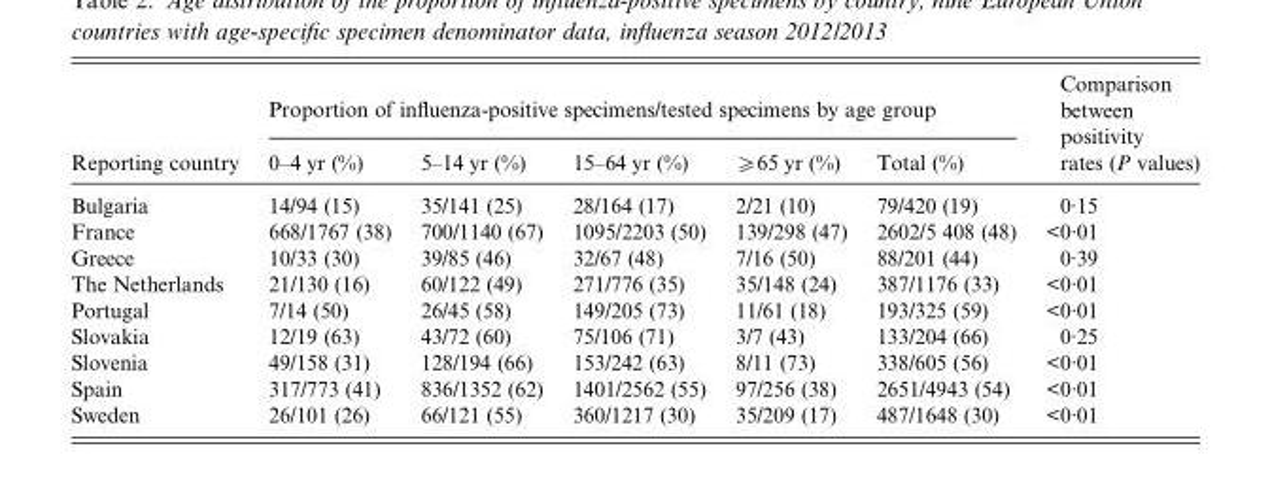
<table><thead><tr><td rowspan="2">Reporting country</td><td colspan="5">Proportion of influenza-positive specimens/tested specimens by age group</td><td rowspan="2">Comparison between positivity rates (P values)</td></tr><tr><td>0–4 yr (%)</td><td>5–14 yr (%)</td><td>15–64 yr (%)</td><td>⩾65 yr (%)</td><td>Total (%)</td></tr></thead><tbody><tr><td>Bulgaria</td><td>14/94 (15)</td><td>35/141 (25)</td><td>28/164 (17)</td><td>2/21 (10)</td><td>79/420 (19)</td><td>0·15</td></tr><tr><td>France</td><td>668/1767 (38)</td><td>700/1140 (67)</td><td>1095/2203 (50)</td><td>139/298 (47)</td><td>2602/5 408 (48)</td><td>&lt;0·01</td></tr><tr><td>Greece</td><td>10/33 (30)</td><td>39/85 (46)</td><td>32/67 (48)</td><td>7/16 (50)</td><td>88/201 (44)</td><td>0·39</td></tr><tr><td>The Netherlands</td><td>21/130 (16)</td><td>60/122 (49)</td><td>271/776 (35)</td><td>35/148 (24)</td><td>387/1176 (33)</td><td>&lt;0·01</td></tr><tr><td>Portugal</td><td>7/14 (50)</td><td>26/45 (58)</td><td>149/205 (73)</td><td>11/61 (18)</td><td>193/325 (59)</td><td>&lt;0·01</td></tr><tr><td>Slovakia</td><td>12/19 (63)</td><td>43/72 (60)</td><td>75/106 (71)</td><td>3/7 (43)</td><td>133/204 (66)</td><td>0·25</td></tr><tr><td>Slovenia</td><td>49/158 (31)</td><td>128/194 (66)</td><td>153/242 (63)</td><td>8/11 (73)</td><td>338/605 (56)</td><td>&lt;0·01</td></tr><tr><td>Spain</td><td>317/773 (41)</td><td>836/1352 (62)</td><td>1401/2562 (55)</td><td>97/256 (38)</td><td>2651/4943 (54)</td><td>&lt;0·01</td></tr><tr><td>Sweden</td><td>26/101 (26)</td><td>66/121 (55)</td><td>360/1217 (30)</td><td>35/209 (17)</td><td>487/1648 (30)</td><td>&lt;0·01</td></tr></tbody></table>